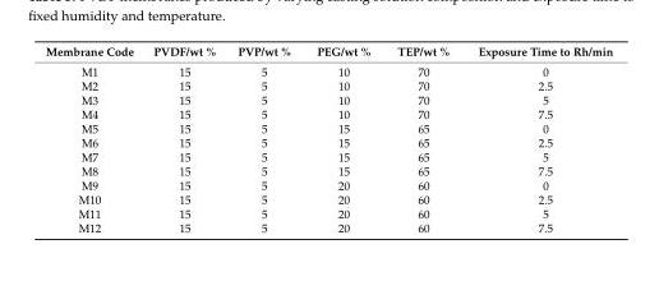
<table><thead><tr><td>Membrane Code</td><td>PVDF/wt %</td><td>PVP/wt %</td><td>PEG/wt %</td><td>TEP/wt %</td><td>Exposure Time to Rh/min</td></tr></thead><tbody><tr><td>M1</td><td>15</td><td>5</td><td>10</td><td>70</td><td>0</td></tr><tr><td>M2</td><td>15</td><td>5</td><td>10</td><td>70</td><td>2.5</td></tr><tr><td>M3</td><td>15</td><td>5</td><td>10</td><td>70</td><td>5</td></tr><tr><td>M4</td><td>15</td><td>5</td><td>10</td><td>70</td><td>7.5</td></tr><tr><td>M5</td><td>15</td><td>5</td><td>15</td><td>65</td><td>0</td></tr><tr><td>M6</td><td>15</td><td>5</td><td>15</td><td>65</td><td>2.5</td></tr><tr><td>M7</td><td>15</td><td>5</td><td>15</td><td>65</td><td>5</td></tr><tr><td>M8</td><td>15</td><td>5</td><td>15</td><td>65</td><td>7.5</td></tr><tr><td>M9</td><td>15</td><td>5</td><td>20</td><td>60</td><td>0</td></tr><tr><td>M10</td><td>15</td><td>5</td><td>20</td><td>60</td><td>2.5</td></tr><tr><td>M11</td><td>15</td><td>5</td><td>20</td><td>60</td><td>5</td></tr><tr><td>M12</td><td>15</td><td>5</td><td>20</td><td>60</td><td>7.5</td></tr></tbody></table>